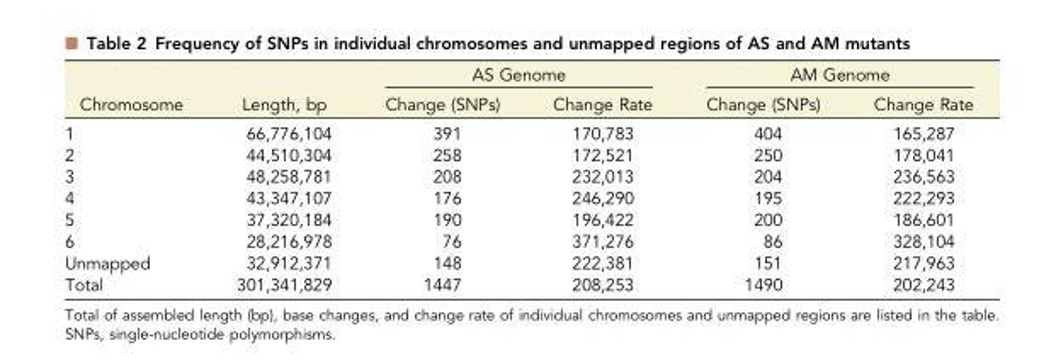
<table><thead><tr><td rowspan="2">Chromosome</td><td rowspan="2">Length, bp</td><td colspan="2">AS Genome</td><td colspan="2">AM Genome</td></tr><tr><td>Change (SNPs)</td><td>Change Rate</td><td>Change (SNPs)</td><td>Change Rate</td></tr></thead><tbody><tr><td>1</td><td>66,776,104</td><td>391</td><td>170,783</td><td>404</td><td>165,287</td></tr><tr><td>2</td><td>44,510,304</td><td>258</td><td>172,521</td><td>250</td><td>178,041</td></tr><tr><td>3</td><td>48,258,781</td><td>208</td><td>232,013</td><td>204</td><td>236,563</td></tr><tr><td>4</td><td>43,347,107</td><td>176</td><td>246,290</td><td>195</td><td>222,293</td></tr><tr><td>5</td><td>37,320,184</td><td>190</td><td>196,422</td><td>200</td><td>186,601</td></tr><tr><td>6</td><td>28,216,978</td><td>76</td><td>371,276</td><td>86</td><td>328,104</td></tr><tr><td>Unmapped</td><td>32,912,371</td><td>148</td><td>222,381</td><td>151</td><td>217,963</td></tr><tr><td>Total</td><td>301,341,829</td><td>1447</td><td>208,253</td><td>1490</td><td>202,243</td></tr></tbody></table>